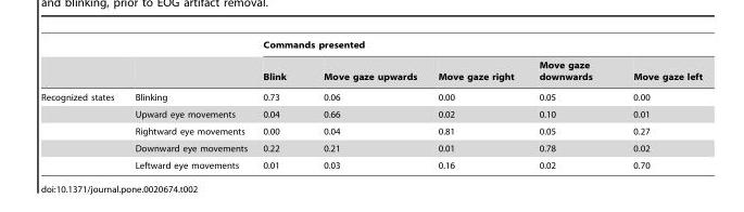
<table><thead><tr><td rowspan="2"></td><td rowspan="2"></td><td colspan="5">Commands presented</td></tr><tr><td>Blink</td><td>Move gaze upwards</td><td>Move gaze right</td><td>Move gaze downwards</td><td>Move gaze left</td></tr></thead><tbody><tr><td rowspan="5">Recognized states</td><td>Blinking</td><td>0.73</td><td>0.06</td><td>0.00</td><td>0.05</td><td>0.00</td></tr><tr><td>Upward eye movements</td><td>0.04</td><td>0.66</td><td>0.02</td><td>0.10</td><td>0.01</td></tr><tr><td>Rightward eye movements</td><td>0.00</td><td>0.04</td><td>0.81</td><td>0.05</td><td>0.27</td></tr><tr><td>Downward eye movements</td><td>0.22</td><td>0.21</td><td>0.01</td><td>0.78</td><td>0.02</td></tr><tr><td>Leftward eye movements</td><td>0.01</td><td>0.03</td><td>0.16</td><td>0.02</td><td>0.70</td></tr></tbody></table>